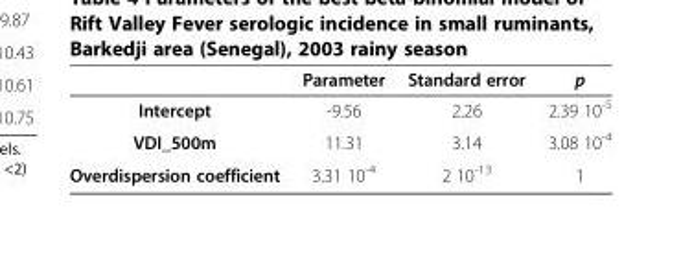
<table><thead><tr><td></td><td>Parameter</td><td>Standard error</td><td>p</td></tr></thead><tbody><tr><td>Intercept</td><td>-9.56</td><td>2.26</td><td>2.39 10<sup>-5</sup></td></tr><tr><td>VDI_500m</td><td>11.31</td><td>3.14</td><td>3.08 10<sup>-4</sup></td></tr><tr><td>Overdispersion coefficient</td><td>3.31 10<sup>-4</sup></td><td>2 10<sup>-13</sup></td><td>1</td></tr></tbody></table>